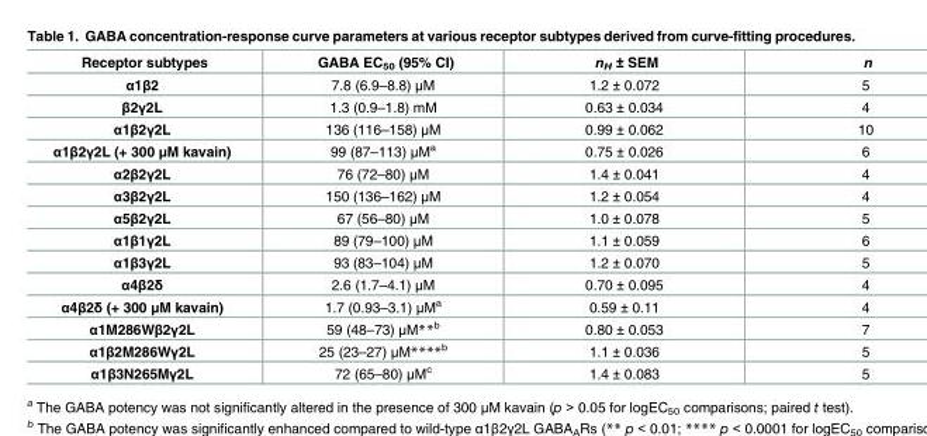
<table><thead><tr><td>Receptor subtypes</td><td>GABA EC<sub>50</sub> (95% CI)</td><td>n<sub>H</sub> ± SEM</td><td>n</td></tr></thead><tbody><tr><td>α1β2</td><td>7.8 (6.9–8.8) μM</td><td>1.2 ± 0.072</td><td>5</td></tr><tr><td>β2γ2L</td><td>1.3 (0.9–1.8) mM</td><td>0.63 ± 0.034</td><td>4</td></tr><tr><td>α1β2γ2L</td><td>136 (116–158) μM</td><td>0.99 ± 0.062</td><td>10</td></tr><tr><td>α1β2γ2L (+ 300 μM kavain)</td><td>99 (87–113) μM<sup>a</sup></td><td>0.75 ± 0.026</td><td>6</td></tr><tr><td>α2β2γ2L</td><td>76 (72–80) μM</td><td>1.4 ± 0.041</td><td>4</td></tr><tr><td>α3β2γ2L</td><td>150 (136–162) μM</td><td>1.2 ± 0.054</td><td>4</td></tr><tr><td>α5β2γ2L</td><td>67 (56–80) μM</td><td>1.0 ± 0.078</td><td>5</td></tr><tr><td>α1β1γ2L</td><td>89 (79–100) μM</td><td>1.1 ± 0.059</td><td>6</td></tr><tr><td>α1β3γ2L</td><td>93 (83–104) μM</td><td>1.2 ± 0.070</td><td>5</td></tr><tr><td>α4β2δ</td><td>2.6 (1.7–4.1) μM</td><td>0.70 ± 0.095</td><td>4</td></tr><tr><td>α4β2δ (+ 300 μM kavain)</td><td>1.7 (0.93–3.1) μM<sup>a</sup></td><td>0.59 ± 0.11</td><td>4</td></tr><tr><td>α1M286Wβ2γ2L</td><td>59 (48–73) μM**<sup>b</sup></td><td>0.80 ± 0.053</td><td>7</td></tr><tr><td>α1β2M286Wγ2L</td><td>25 (23–27) μM****<sup>b</sup></td><td>1.1 ± 0.036</td><td>5</td></tr><tr><td>α1β3N265Mγ2L</td><td>72 (65–80) μM<sup>c</sup></td><td>1.4 ± 0.083</td><td>5</td></tr></tbody></table>